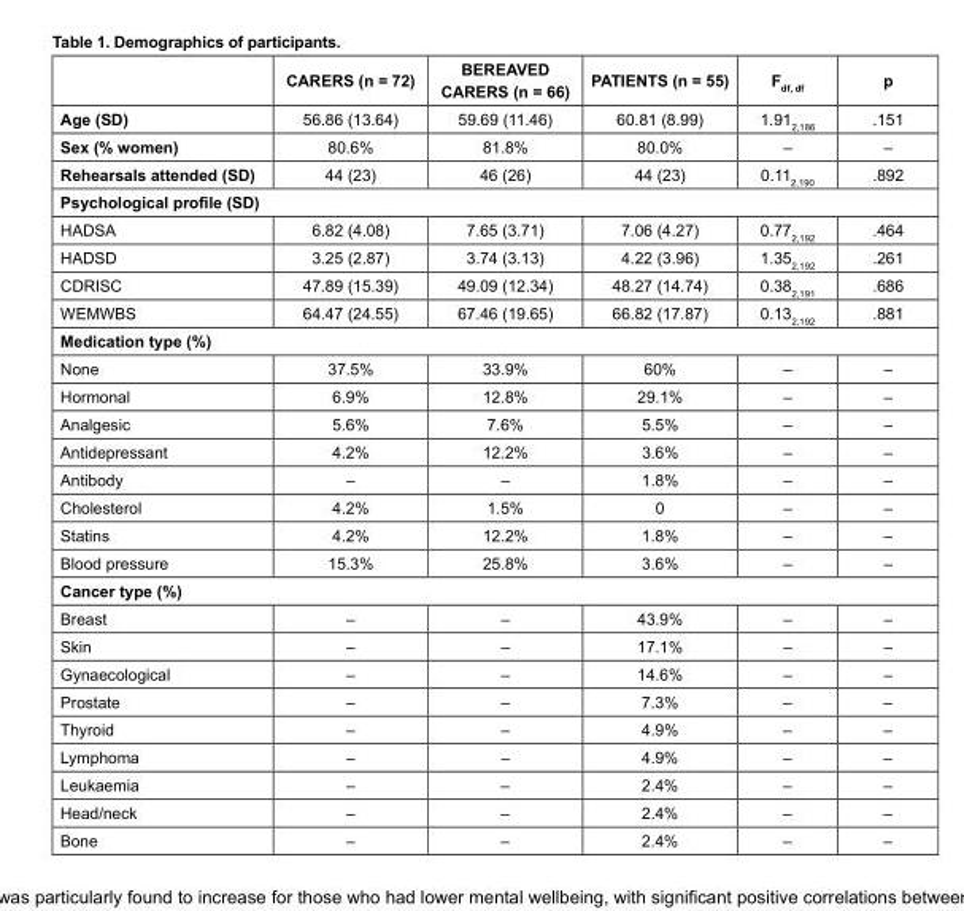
<table><thead><tr><td></td><td>CARERS (n = 72)</td><td>BEREAVED CARERS (n = 66)</td><td>PATIENTS (n = 55)</td><td>F<sub>df, df</sub></td><td>p</td></tr></thead><tbody><tr><td>Age (SD)</td><td>56.86 (13.64)</td><td>59.69 (11.46)</td><td>60.81 (8.99)</td><td>1.91<sub>2,186</sub></td><td>.151</td></tr><tr><td>Sex (% women)</td><td>80.6%</td><td>81.8%</td><td>80.0%</td><td>–</td><td>–</td></tr><tr><td>Rehearsals attended (SD)</td><td>44 (23)</td><td>46 (26)</td><td>44 (23)</td><td>0.11<sub>2,190</sub></td><td>.892</td></tr><tr><td colspan="6">Psychological profile (SD)</td></tr><tr><td>HADSA</td><td>6.82 (4.08)</td><td>7.65 (3.71)</td><td>7.06 (4.27)</td><td>0.77<sub>2,192</sub></td><td>.464</td></tr><tr><td>HADSD</td><td>3.25 (2.87)</td><td>3.74 (3.13)</td><td>4.22 (3.96)</td><td>1.35<sub>2,192</sub></td><td>.261</td></tr><tr><td>CDRISC</td><td>47.89 (15.39)</td><td>49.09 (12.34)</td><td>48.27 (14.74)</td><td>0.38<sub>2,191</sub></td><td>.686</td></tr><tr><td>WEMWBS</td><td>64.47 (24.55)</td><td>67.46 (19.65)</td><td>66.82 (17.87)</td><td>0.13<sub>2,192</sub></td><td>.881</td></tr><tr><td colspan="6">Medication type (%)</td></tr><tr><td>None</td><td>37.5%</td><td>33.9%</td><td>60%</td><td>–</td><td>–</td></tr><tr><td>Hormonal</td><td>6.9%</td><td>12.8%</td><td>29.1%</td><td>–</td><td>–</td></tr><tr><td>Analgesic</td><td>5.6%</td><td>7.6%</td><td>5.5%</td><td>–</td><td>–</td></tr><tr><td>Antidepressant</td><td>4.2%</td><td>12.2%</td><td>3.6%</td><td>–</td><td>–</td></tr><tr><td>Antibody</td><td>–</td><td>–</td><td>1.8%</td><td>–</td><td>–</td></tr><tr><td>Cholesterol</td><td>4.2%</td><td>1.5%</td><td>0</td><td>–</td><td>–</td></tr><tr><td>Statins</td><td>4.2%</td><td>12.2%</td><td>1.8%</td><td>–</td><td>–</td></tr><tr><td>Blood pressure</td><td>15.3%</td><td>25.8%</td><td>3.6%</td><td>–</td><td>–</td></tr><tr><td colspan="6">Cancer type (%)</td></tr><tr><td>Breast</td><td>–</td><td>–</td><td>43.9%</td><td>–</td><td>–</td></tr><tr><td>Skin</td><td>–</td><td>–</td><td>17.1%</td><td>–</td><td>–</td></tr><tr><td>Gynaecological</td><td>–</td><td>–</td><td>14.6%</td><td>–</td><td>–</td></tr><tr><td>Prostate</td><td>–</td><td>–</td><td>7.3%</td><td>–</td><td>–</td></tr><tr><td>Thyroid</td><td>–</td><td>–</td><td>4.9%</td><td>–</td><td>–</td></tr><tr><td>Lymphoma</td><td>–</td><td>–</td><td>4.9%</td><td>–</td><td>–</td></tr><tr><td>Leukaemia</td><td>–</td><td>–</td><td>2.4%</td><td>–</td><td>–</td></tr><tr><td>Head/neck</td><td>–</td><td>–</td><td>2.4%</td><td>–</td><td>–</td></tr><tr><td>Bone</td><td>–</td><td>–</td><td>2.4%</td><td>–</td><td>–</td></tr></tbody></table>